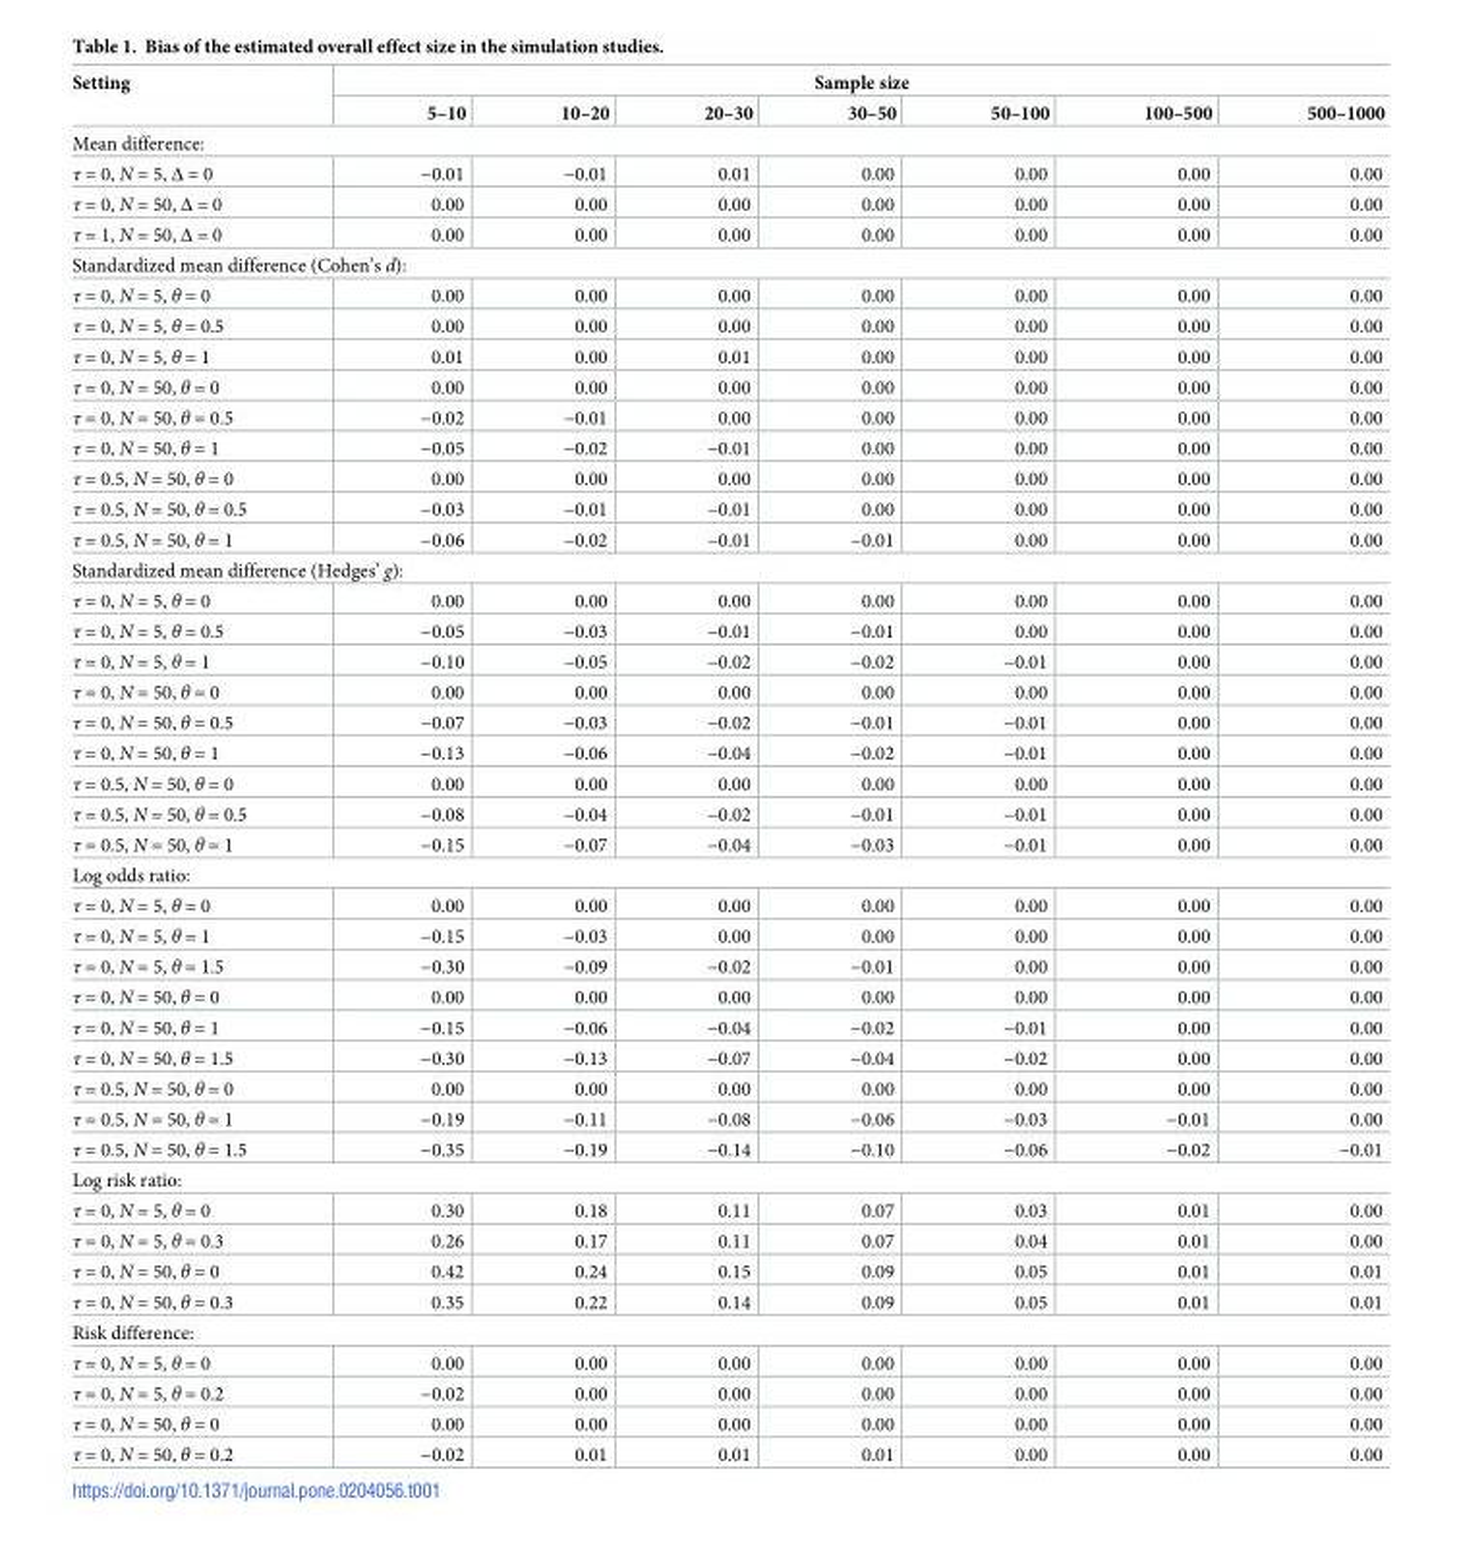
<table><thead><tr><td rowspan="2">Setting</td><td colspan="7">Sample size</td></tr><tr><td>5–10</td><td>10–20</td><td>20–30</td><td>30–50</td><td>50–100</td><td>100–500</td><td>500–1000</td></tr></thead><tbody><tr><td colspan="8">Mean difference:</td></tr><tr><td>τ = 0, N = 5, Δ = 0</td><td>−0.01</td><td>−0.01</td><td>0.01</td><td>0.00</td><td>0.00</td><td>0.00</td><td>0.00</td></tr><tr><td>τ = 0, N = 50, Δ = 0</td><td>0.00</td><td>0.00</td><td>0.00</td><td>0.00</td><td>0.00</td><td>0.00</td><td>0.00</td></tr><tr><td>τ = 1, N = 50, Δ = 0</td><td>0.00</td><td>0.00</td><td>0.00</td><td>0.00</td><td>0.00</td><td>0.00</td><td>0.00</td></tr><tr><td colspan="8">Standardized mean difference (Cohen’s d):</td></tr><tr><td>τ = 0, N = 5, θ = 0</td><td>0.00</td><td>0.00</td><td>0.00</td><td>0.00</td><td>0.00</td><td>0.00</td><td>0.00</td></tr><tr><td>τ = 0, N = 5, θ = 0.5</td><td>0.00</td><td>0.00</td><td>0.00</td><td>0.00</td><td>0.00</td><td>0.00</td><td>0.00</td></tr><tr><td>τ = 0, N = 5, θ = 1</td><td>0.01</td><td>0.00</td><td>0.01</td><td>0.00</td><td>0.00</td><td>0.00</td><td>0.00</td></tr><tr><td>τ = 0, N = 50, θ = 0</td><td>0.00</td><td>0.00</td><td>0.00</td><td>0.00</td><td>0.00</td><td>0.00</td><td>0.00</td></tr><tr><td>τ = 0, N = 50, θ = 0.5</td><td>−0.02</td><td>−0.01</td><td>0.00</td><td>0.00</td><td>0.00</td><td>0.00</td><td>0.00</td></tr><tr><td>τ = 0, N = 50, θ = 1</td><td>−0.05</td><td>−0.02</td><td>−0.01</td><td>0.00</td><td>0.00</td><td>0.00</td><td>0.00</td></tr><tr><td>τ = 0.5, N = 50, θ = 0</td><td>0.00</td><td>0.00</td><td>0.00</td><td>0.00</td><td>0.00</td><td>0.00</td><td>0.00</td></tr><tr><td>τ = 0.5, N = 50, θ = 0.5</td><td>−0.03</td><td>−0.01</td><td>−0.01</td><td>0.00</td><td>0.00</td><td>0.00</td><td>0.00</td></tr><tr><td>τ = 0.5, N = 50, θ = 1</td><td>−0.06</td><td>−0.02</td><td>−0.01</td><td>−0.01</td><td>0.00</td><td>0.00</td><td>0.00</td></tr><tr><td colspan="8">Standardized mean difference (Hedges’ g):</td></tr><tr><td>τ = 0, N = 5, θ = 0</td><td>0.00</td><td>0.00</td><td>0.00</td><td>0.00</td><td>0.00</td><td>0.00</td><td>0.00</td></tr><tr><td>τ = 0, N = 5, θ = 0.5</td><td>−0.05</td><td>−0.03</td><td>−0.01</td><td>−0.01</td><td>0.00</td><td>0.00</td><td>0.00</td></tr><tr><td>τ = 0, N = 5, θ = 1</td><td>−0.10</td><td>−0.05</td><td>−0.02</td><td>−0.02</td><td>−0.01</td><td>0.00</td><td>0.00</td></tr><tr><td>τ = 0, N = 50, θ = 0</td><td>0.00</td><td>0.00</td><td>0.00</td><td>0.00</td><td>0.00</td><td>0.00</td><td>0.00</td></tr><tr><td>τ = 0, N = 50, θ = 0.5</td><td>−0.07</td><td>−0.03</td><td>−0.02</td><td>−0.01</td><td>−0.01</td><td>0.00</td><td>0.00</td></tr><tr><td>τ = 0, N = 50, θ = 1</td><td>−0.13</td><td>−0.06</td><td>−0.04</td><td>−0.02</td><td>−0.01</td><td>0.00</td><td>0.00</td></tr><tr><td>τ = 0.5, N = 50, θ = 0</td><td>0.00</td><td>0.00</td><td>0.00</td><td>0.00</td><td>0.00</td><td>0.00</td><td>0.00</td></tr><tr><td>τ = 0.5, N = 50, θ = 0.5</td><td>−0.08</td><td>−0.04</td><td>−0.02</td><td>−0.01</td><td>−0.01</td><td>0.00</td><td>0.00</td></tr><tr><td>τ = 0.5, N = 50, θ = 1</td><td>−0.15</td><td>−0.07</td><td>−0.04</td><td>−0.03</td><td>−0.01</td><td>0.00</td><td>0.00</td></tr><tr><td colspan="8">Log odds ratio:</td></tr><tr><td>τ = 0, N = 5, θ = 0</td><td>0.00</td><td>0.00</td><td>0.00</td><td>0.00</td><td>0.00</td><td>0.00</td><td>0.00</td></tr><tr><td>τ = 0, N = 5, θ = 1</td><td>−0.15</td><td>−0.03</td><td>0.00</td><td>0.00</td><td>0.00</td><td>0.00</td><td>0.00</td></tr><tr><td>τ = 0, N = 5, θ = 1.5</td><td>−0.30</td><td>−0.09</td><td>−0.02</td><td>−0.01</td><td>0.00</td><td>0.00</td><td>0.00</td></tr><tr><td>τ = 0, N = 50, θ = 0</td><td>0.00</td><td>0.00</td><td>0.00</td><td>0.00</td><td>0.00</td><td>0.00</td><td>0.00</td></tr><tr><td>τ = 0, N = 50, θ = 1</td><td>−0.15</td><td>−0.06</td><td>−0.04</td><td>−0.02</td><td>−0.01</td><td>0.00</td><td>0.00</td></tr><tr><td>τ = 0, N = 50, θ = 1.5</td><td>−0.30</td><td>−0.13</td><td>−0.07</td><td>−0.04</td><td>−0.02</td><td>0.00</td><td>0.00</td></tr><tr><td>τ = 0.5, N = 50, θ = 0</td><td>0.00</td><td>0.00</td><td>0.00</td><td>0.00</td><td>0.00</td><td>0.00</td><td>0.00</td></tr><tr><td>τ = 0.5, N = 50, θ = 1</td><td>−0.19</td><td>−0.11</td><td>−0.08</td><td>−0.06</td><td>−0.03</td><td>−0.01</td><td>0.00</td></tr><tr><td>τ = 0.5, N = 50, θ = 1.5</td><td>−0.35</td><td>−0.19</td><td>−0.14</td><td>−0.10</td><td>−0.06</td><td>−0.02</td><td>−0.01</td></tr><tr><td colspan="8">Log risk ratio:</td></tr><tr><td>τ = 0, N = 5, θ = 0</td><td>0.30</td><td>0.18</td><td>0.11</td><td>0.07</td><td>0.03</td><td>0.01</td><td>0.00</td></tr><tr><td>τ = 0, N = 5, θ = 0.3</td><td>0.26</td><td>0.17</td><td>0.11</td><td>0.07</td><td>0.04</td><td>0.01</td><td>0.00</td></tr><tr><td>τ = 0, N = 50, θ = 0</td><td>0.42</td><td>0.24</td><td>0.15</td><td>0.09</td><td>0.05</td><td>0.01</td><td>0.01</td></tr><tr><td>τ = 0, N = 50, θ = 0.3</td><td>0.35</td><td>0.22</td><td>0.14</td><td>0.09</td><td>0.05</td><td>0.01</td><td>0.01</td></tr><tr><td colspan="8">Risk difference:</td></tr><tr><td>τ = 0, N = 5, θ = 0</td><td>0.00</td><td>0.00</td><td>0.00</td><td>0.00</td><td>0.00</td><td>0.00</td><td>0.00</td></tr><tr><td>τ = 0, N = 5, θ = 0.2</td><td>−0.02</td><td>0.00</td><td>0.00</td><td>0.00</td><td>0.00</td><td>0.00</td><td>0.00</td></tr><tr><td>τ = 0, N = 50, θ = 0</td><td>0.00</td><td>0.00</td><td>0.00</td><td>0.00</td><td>0.00</td><td>0.00</td><td>0.00</td></tr><tr><td>τ = 0, N = 50, θ = 0.2</td><td>−0.02</td><td>0.01</td><td>0.01</td><td>0.01</td><td>0.00</td><td>0.00</td><td>0.00</td></tr></tbody></table>